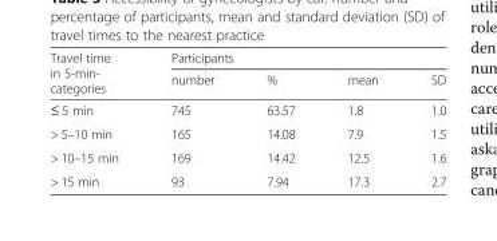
<table><thead><tr><td rowspan="2">Travel time in 5-min- categories</td><td colspan="4">Participants</td></tr><tr><td>number</td><td>%</td><td>mean</td><td>SD</td></tr></thead><tbody><tr><td>≤ 5 min</td><td>745</td><td>63.57</td><td>1.8</td><td>1.0</td></tr><tr><td>&gt; 5–10 min</td><td>165</td><td>14.08</td><td>7.9</td><td>1.5</td></tr><tr><td>&gt; 10–15 min</td><td>169</td><td>14.42</td><td>12.5</td><td>1.6</td></tr><tr><td>&gt; 15 min</td><td>93</td><td>7.94</td><td>17.3</td><td>2.7</td></tr></tbody></table>